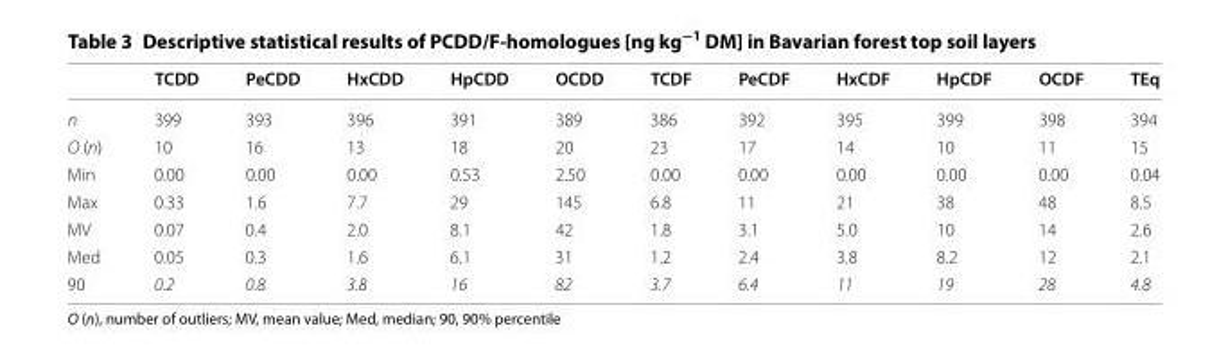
<table><thead><tr><td></td><td>TCDD</td><td>PeCDD</td><td>HxCDD</td><td>HpCDD</td><td>OCDD</td><td>TCDF</td><td>PeCDF</td><td>HxCDF</td><td>HpCDF</td><td>OCDF</td><td>TEq</td></tr></thead><tbody><tr><td>n</td><td>399</td><td>393</td><td>396</td><td>391</td><td>389</td><td>386</td><td>392</td><td>395</td><td>399</td><td>398</td><td>394</td></tr><tr><td>O (n)</td><td>10</td><td>16</td><td>13</td><td>18</td><td>20</td><td>23</td><td>17</td><td>14</td><td>10</td><td>11</td><td>15</td></tr><tr><td>Min</td><td>0.00</td><td>0.00</td><td>0.00</td><td>0.53</td><td>2.50</td><td>0.00</td><td>0.00</td><td>0.00</td><td>0.00</td><td>0.00</td><td>0.04</td></tr><tr><td>Max</td><td>0.33</td><td>1.6</td><td>7.7</td><td>29</td><td>145</td><td>6.8</td><td>11</td><td>21</td><td>38</td><td>48</td><td>8.5</td></tr><tr><td>MV</td><td>0.07</td><td>0.4</td><td>2.0</td><td>8.1</td><td>42</td><td>1.8</td><td>3.1</td><td>5.0</td><td>10</td><td>14</td><td>2.6</td></tr><tr><td>Med</td><td>0.05</td><td>0.3</td><td>1.6</td><td>6.1</td><td>31</td><td>1.2</td><td>2.4</td><td>3.8</td><td>8.2</td><td>12</td><td>2.1</td></tr><tr><td>90</td><td>0.2</td><td>0.8</td><td>3.8</td><td>16</td><td>82</td><td>3.7</td><td>6.4</td><td>11</td><td>19</td><td>28</td><td>4.8</td></tr></tbody></table>